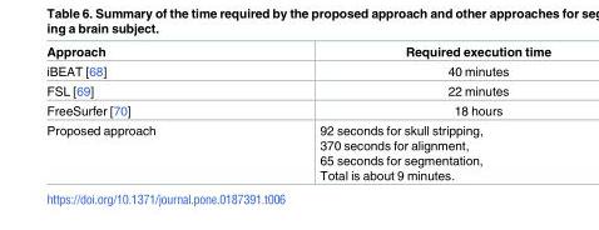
<table><thead><tr><td>Approach</td><td>Required execution time</td></tr></thead><tbody><tr><td>iBEAT [68]</td><td>40 minutes</td></tr><tr><td>FSL [69]</td><td>22 minutes</td></tr><tr><td>FreeSurfer [70]</td><td>18 hours</td></tr><tr><td>Proposed approach</td><td>92 seconds for skull stripping, 370 seconds for alignment, 65 seconds for segmentation, Total is about 9 minutes.</td></tr></tbody></table>